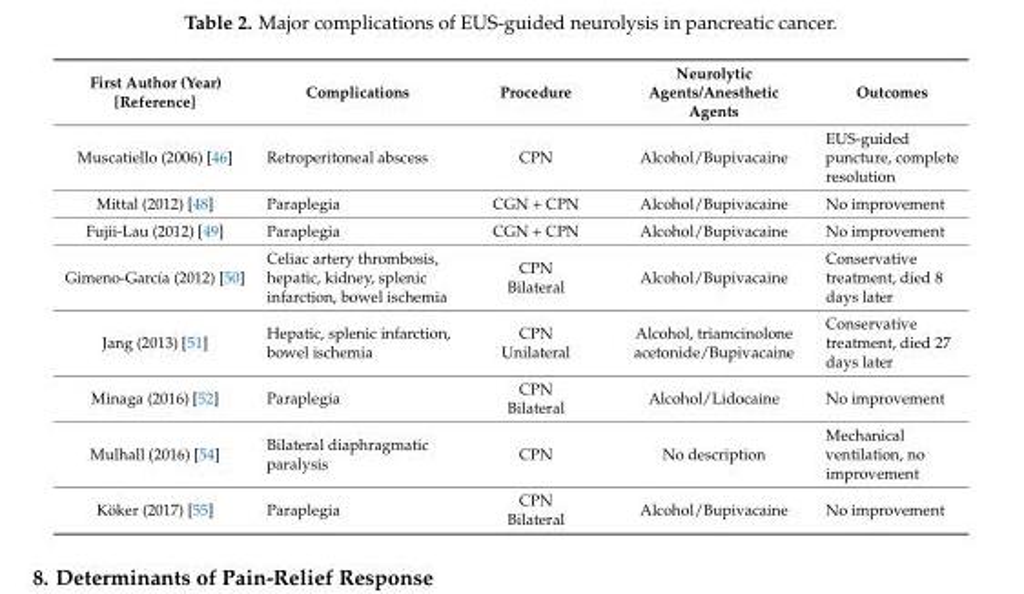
<table><thead><tr><td>First Author (Year) [Reference]</td><td>Complications</td><td>Procedure</td><td>Neurolytic Agents/Anesthetic Agents</td><td>Outcomes</td></tr></thead><tbody><tr><td>Muscatiello (2006) [46]</td><td>Retroperitoneal abscess</td><td>CPN</td><td>Alcohol/Bupivacaine</td><td>EUS-guided puncture, complete resolution</td></tr><tr><td>Mittal (2012) [48]</td><td>Paraplegia</td><td>CGN + CPN</td><td>Alcohol/Bupivacaine</td><td>No improvement</td></tr><tr><td>Fujii-Lau (2012) [49]</td><td>Paraplegia</td><td>CGN + CPN</td><td>Alcohol/Bupivacaine</td><td>No improvement</td></tr><tr><td>Gimeno-García (2012) [50]</td><td>Celiac artery thrombosis, hepatic, kidney, splenic infarction, bowel ischemia</td><td>CPN Bilateral</td><td>Alcohol/Bupivacaine</td><td>Conservative treatment, died 8 days later</td></tr><tr><td>Jang (2013) [51]</td><td>Hepatic, splenic infarction, bowel ischemia</td><td>CPN Unilateral</td><td>Alcohol, triamcinolone acetonide/Bupivacaine</td><td>Conservative treatment, died 27 days later</td></tr><tr><td>Minaga (2016) [52]</td><td>Paraplegia</td><td>CPN Bilateral</td><td>Alcohol/Lidocaine</td><td>No improvement</td></tr><tr><td>Mulhall (2016) [54]</td><td>Bilateral diaphragmatic paralysis</td><td>CPN</td><td>No description</td><td>Mechanical ventilation, no improvement</td></tr><tr><td>Köker (2017) [55]</td><td>Paraplegia</td><td>CPN Bilateral</td><td>Alcohol/Bupivacaine</td><td>No improvement</td></tr></tbody></table>